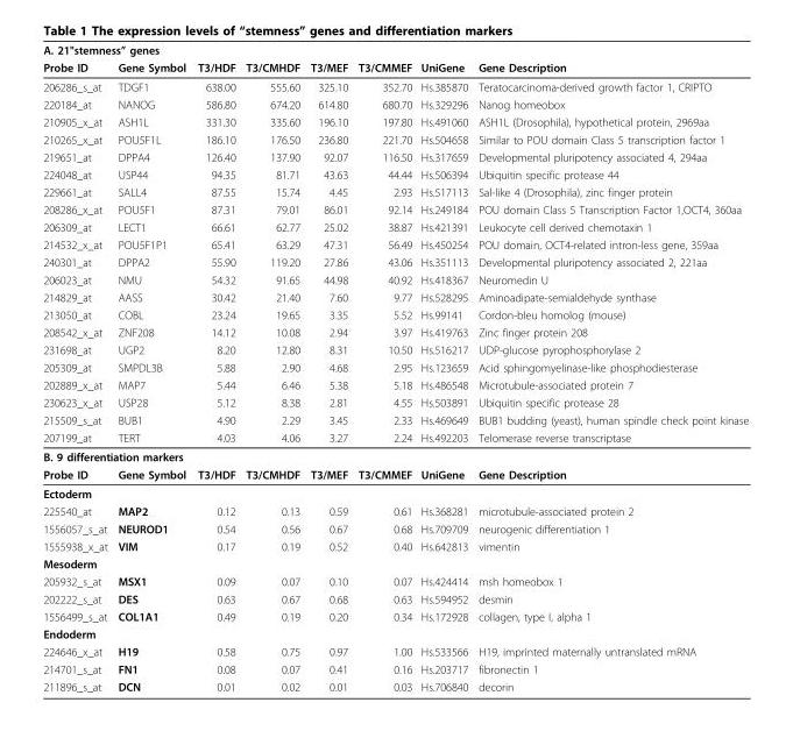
<table><thead><tr><td colspan="3">A. 21&quot;stemness” genes</td><td rowspan="2">T3/CMHDF</td><td rowspan="2">T3/MEF</td><td rowspan="2">T3/CMMEF</td><td rowspan="2">UniGene</td><td rowspan="2">Gene Description</td></tr><tr><td>Probe ID</td><td>Gene Symbol</td><td>T3/HDF</td></tr></thead><tbody><tr><td>206286_s_at</td><td>TDGF1</td><td>638.00</td><td>555.60</td><td>325.10</td><td>352.70</td><td>Hs.385870</td><td>Teratocarcinoma-derived growth factor 1, CRIPTO</td></tr><tr><td>220184_at</td><td>NANOG</td><td>586.80</td><td>674.20</td><td>614.80</td><td>680.70</td><td>Hs.329296</td><td>Nanog homeobox</td></tr><tr><td>210905_x_at</td><td>ASH1L</td><td>331.30</td><td>335.60</td><td>196.10</td><td>197.80</td><td>Hs.491060</td><td>ASH1L (Drosophila), hypothetical protein, 2969aa</td></tr><tr><td>210265_x_at</td><td>POU5F1L</td><td>186.10</td><td>176.50</td><td>236.80</td><td>221.70</td><td>Hs.504658</td><td>Similar to POU domain Class 5 transcription factor 1</td></tr><tr><td>219651_at</td><td>DPPA4</td><td>126.40</td><td>137.90</td><td>92.07</td><td>116.50</td><td>Hs.317659</td><td>Developmental pluripotency associated 4, 294aa</td></tr><tr><td>224048_at</td><td>USP44</td><td>94.35</td><td>81.71</td><td>43.63</td><td>44.44</td><td>Hs.506394</td><td>Ubiquitin specific protease 44</td></tr><tr><td>229661_at</td><td>SALL4</td><td>87.55</td><td>15.74</td><td>4.45</td><td>2.93</td><td>Hs.517113</td><td>Sal-like 4 (Drosophila), zinc finger protein</td></tr><tr><td>208286_x_at</td><td>POU5F1</td><td>87.31</td><td>79.01</td><td>86.01</td><td>92.14</td><td>Hs.249184</td><td>POU domain Class 5 Transcription Factor 1,OCT4, 360aa</td></tr><tr><td>206309_at</td><td>LECT1</td><td>66.61</td><td>62.77</td><td>25.02</td><td>38.87</td><td>Hs.421391</td><td>Leukocyte cell derived chemotaxin 1</td></tr><tr><td>214532_x_at</td><td>POU5F1P1</td><td>65.41</td><td>63.29</td><td>47.31</td><td>56.49</td><td>Hs.450254</td><td>POU domain, OCT4-related intron-less gene, 359aa</td></tr><tr><td>240301_at</td><td>DPPA2</td><td>55.90</td><td>119.20</td><td>27.86</td><td>43.06</td><td>Hs.351113</td><td>Developmental pluripotency associated 2, 221aa</td></tr><tr><td>206023_at</td><td>NMU</td><td>54.32</td><td>91.65</td><td>44.98</td><td>40.92</td><td>Hs.418367</td><td>Neuromedin U</td></tr><tr><td>214829_at</td><td>AASS</td><td>30.42</td><td>21.40</td><td>7.60</td><td>9.77</td><td>Hs.528295</td><td>Aminoadipate-semialdehyde synthase</td></tr><tr><td>213050_at</td><td>COBL</td><td>23.24</td><td>19.65</td><td>3.35</td><td>5.52</td><td>Hs.99141</td><td>Cordon-bleu homolog (mouse)</td></tr><tr><td>208542_x_at</td><td>ZNF208</td><td>14.12</td><td>10.08</td><td>2.94</td><td>3.97</td><td>Hs.419763</td><td>Zinc finger protein 208</td></tr><tr><td>231698_at</td><td>UGP2</td><td>8.20</td><td>12.80</td><td>8.31</td><td>10.50</td><td>Hs.516217</td><td>UDP-glucose pyrophosphorylase 2</td></tr><tr><td>205309_at</td><td>SMPDL3B</td><td>5.88</td><td>2.90</td><td>4.68</td><td>2.95</td><td>Hs.123659</td><td>Acid sphingomyelinase-like phosphodiesterase</td></tr><tr><td>202889_x_at</td><td>MAP7</td><td>5.44</td><td>6.46</td><td>5.38</td><td>5.18</td><td>Hs.486548</td><td>Microtubule-associated protein 7</td></tr><tr><td>230623_x_at</td><td>USP28</td><td>5.12</td><td>8.38</td><td>2.81</td><td>4.55</td><td>Hs.503891</td><td>Ubiquitin specific protease 28</td></tr><tr><td>215509_s_at</td><td>BUB1</td><td>4.90</td><td>2.29</td><td>3.45</td><td>2.33</td><td>Hs.469649</td><td>BUB1 budding (yeast), human spindle check point kinase</td></tr><tr><td>207199_at</td><td>TERT</td><td>4.03</td><td>4.06</td><td>3.27</td><td>2.24</td><td>Hs.492203</td><td>Telomerase reverse transcriptase</td></tr><tr><td colspan="8">B. 9 differentiation markers</td></tr><tr><td>Probe ID</td><td>Gene Symbol</td><td>T3/HDF</td><td>T3/CMHDF</td><td>T3/MEF</td><td>T3/CMMEF</td><td>UniGene</td><td>Gene Description</td></tr><tr><td colspan="8">Ectoderm</td></tr><tr><td>225540_at</td><td>MAP2</td><td>0.12</td><td>0.13</td><td>0.59</td><td>0.61</td><td>Hs.368281</td><td>microtubule-associated protein 2</td></tr><tr><td>1556057_s_at</td><td>NEUROD1</td><td>0.54</td><td>0.56</td><td>0.67</td><td>0.68</td><td>Hs.709709</td><td>neurogenic differentiation 1</td></tr><tr><td>1555938_x_at</td><td>VIM</td><td>0.17</td><td>0.19</td><td>0.52</td><td>0.40</td><td>Hs.642813</td><td>vimentin</td></tr><tr><td colspan="8">Mesoderm</td></tr><tr><td>205932_s_at</td><td>MSX1</td><td>0.09</td><td>0.07</td><td>0.10</td><td>0.07</td><td>Hs.424414</td><td>msh homeobox 1</td></tr><tr><td>202222_s_at</td><td>DES</td><td>0.63</td><td>0.67</td><td>0.68</td><td>0.63</td><td>Hs.594952</td><td>desmin</td></tr><tr><td>1556499_s_at</td><td>COL1A1</td><td>0.49</td><td>0.19</td><td>0.20</td><td>0.34</td><td>Hs.172928</td><td>collagen, type I, alpha 1</td></tr><tr><td colspan="8">Endoderm</td></tr><tr><td>224646_x_at</td><td>H19</td><td>0.58</td><td>0.75</td><td>0.97</td><td>1.00</td><td>Hs.533566</td><td>H19, imprinted maternally untranslated mRNA</td></tr><tr><td>214701_s_at</td><td>FN1</td><td>0.08</td><td>0.07</td><td>0.41</td><td>0.16</td><td>Hs.203717</td><td>fibronectin 1</td></tr><tr><td>211896_s_at</td><td>DCN</td><td>0.01</td><td>0.02</td><td>0.01</td><td>0.03</td><td>Hs.706840</td><td>decorin</td></tr></tbody></table>